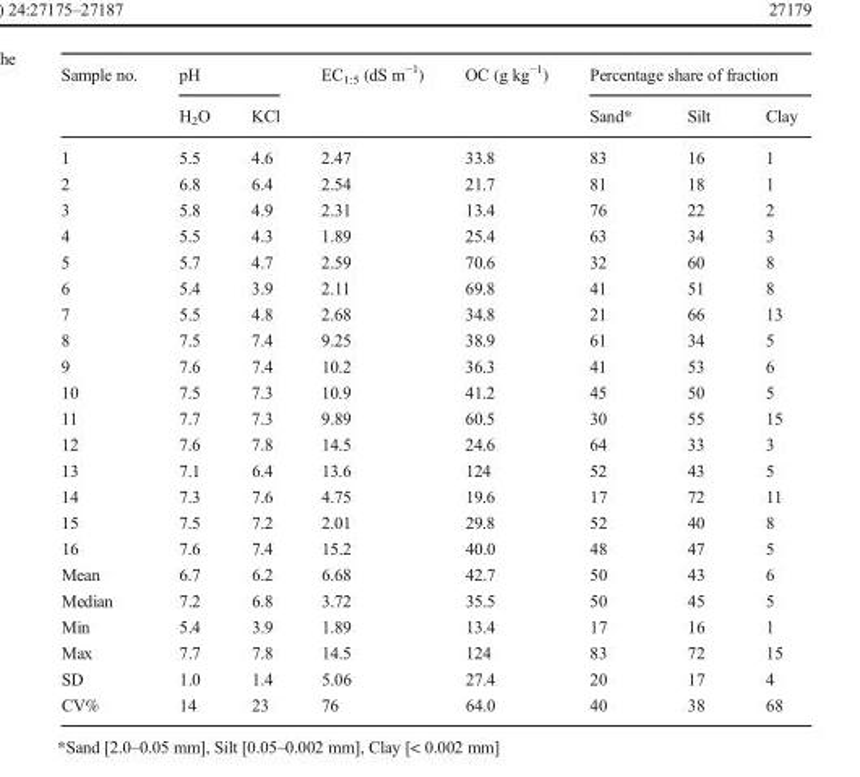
<table><thead><tr><td rowspan="2">Sample no.</td><td colspan="2">pH</td><td rowspan="2">EC<sub>1:5</sub> (dS m<sup>−1</sup>)</td><td rowspan="2">OC (g kg<sup>−1</sup>)</td><td colspan="3">Percentage share of fraction</td></tr><tr><td>H<sub>2</sub>O</td><td>KCl</td><td>Sand*</td><td>Silt</td><td>Clay</td></tr></thead><tbody><tr><td>1</td><td>5.5</td><td>4.6</td><td>2.47</td><td>33.8</td><td>83</td><td>16</td><td>1</td></tr><tr><td>2</td><td>6.8</td><td>6.4</td><td>2.54</td><td>21.7</td><td>81</td><td>18</td><td>1</td></tr><tr><td>3</td><td>5.8</td><td>4.9</td><td>2.31</td><td>13.4</td><td>76</td><td>22</td><td>2</td></tr><tr><td>4</td><td>5.5</td><td>4.3</td><td>1.89</td><td>25.4</td><td>63</td><td>34</td><td>3</td></tr><tr><td>5</td><td>5.7</td><td>4.7</td><td>2.59</td><td>70.6</td><td>32</td><td>60</td><td>8</td></tr><tr><td>6</td><td>5.4</td><td>3.9</td><td>2.11</td><td>69.8</td><td>41</td><td>51</td><td>8</td></tr><tr><td>7</td><td>5.5</td><td>4.8</td><td>2.68</td><td>34.8</td><td>21</td><td>66</td><td>13</td></tr><tr><td>8</td><td>7.5</td><td>7.4</td><td>9.25</td><td>38.9</td><td>61</td><td>34</td><td>5</td></tr><tr><td>9</td><td>7.6</td><td>7.4</td><td>10.2</td><td>36.3</td><td>41</td><td>53</td><td>6</td></tr><tr><td>10</td><td>7.5</td><td>7.3</td><td>10.9</td><td>41.2</td><td>45</td><td>50</td><td>5</td></tr><tr><td>11</td><td>7.7</td><td>7.3</td><td>9.89</td><td>60.5</td><td>30</td><td>55</td><td>15</td></tr><tr><td>12</td><td>7.6</td><td>7.8</td><td>14.5</td><td>24.6</td><td>64</td><td>33</td><td>3</td></tr><tr><td>13</td><td>7.1</td><td>6.4</td><td>13.6</td><td>124</td><td>52</td><td>43</td><td>5</td></tr><tr><td>14</td><td>7.3</td><td>7.6</td><td>4.75</td><td>19.6</td><td>17</td><td>72</td><td>11</td></tr><tr><td>15</td><td>7.5</td><td>7.2</td><td>2.01</td><td>29.8</td><td>52</td><td>40</td><td>8</td></tr><tr><td>16</td><td>7.6</td><td>7.4</td><td>15.2</td><td>40.0</td><td>48</td><td>47</td><td>5</td></tr><tr><td>Mean</td><td>6.7</td><td>6.2</td><td>6.68</td><td>42.7</td><td>50</td><td>43</td><td>6</td></tr><tr><td>Median</td><td>7.2</td><td>6.8</td><td>3.72</td><td>35.5</td><td>50</td><td>45</td><td>5</td></tr><tr><td>Min</td><td>5.4</td><td>3.9</td><td>1.89</td><td>13.4</td><td>17</td><td>16</td><td>1</td></tr><tr><td>Max</td><td>7.7</td><td>7.8</td><td>14.5</td><td>124</td><td>83</td><td>72</td><td>15</td></tr><tr><td>SD</td><td>1.0</td><td>1.4</td><td>5.06</td><td>27.4</td><td>20</td><td>17</td><td>4</td></tr><tr><td>CV%</td><td>14</td><td>23</td><td>76</td><td>64.0</td><td>40</td><td>38</td><td>68</td></tr></tbody></table>